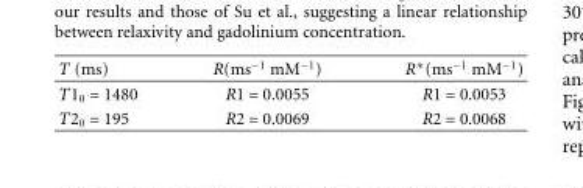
<table><thead><tr><td>T (ms)</td><td>R(ms−1 mM−1)</td><td>R∗(ms−1 mM−1)</td></tr></thead><tbody><tr><td>T1<sub>0</sub> = 1480</td><td>R1 = 0.0055</td><td>R1 = 0.0053</td></tr><tr><td>T2<sub>0</sub> = 195</td><td>R2 = 0.0069</td><td>R2 = 0.0068</td></tr></tbody></table>